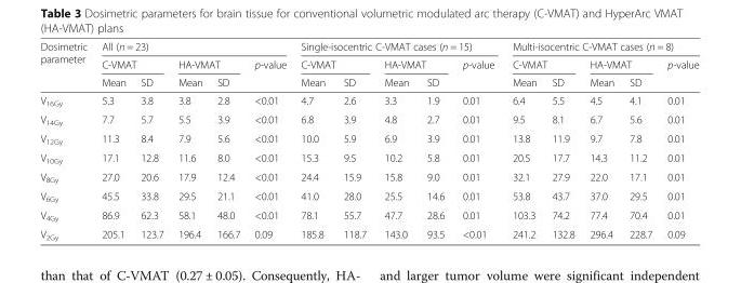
<table><thead><tr><td rowspan="3">Dosimetric parameter</td><td colspan="5">All (n = 23)</td><td colspan="5">Single-isocentric C-VMAT cases (n = 15)</td><td colspan="5">Multi-isocentric C-VMAT cases (n = 8)</td></tr><tr><td colspan="2">C-VMAT</td><td colspan="2">HA-VMAT</td><td rowspan="2">p-value</td><td colspan="2">C-VMAT</td><td colspan="2">HA-VMAT</td><td rowspan="2">p-value</td><td colspan="2">C-VMAT</td><td colspan="2">HA-VMAT</td><td rowspan="2">p-value</td></tr><tr><td>Mean</td><td>SD</td><td>Mean</td><td>SD</td><td>Mean</td><td>SD</td><td>Mean</td><td>SD</td><td>Mean</td><td>SD</td><td>Mean</td><td>SD</td></tr></thead><tbody><tr><td>V<sub>16Gy</sub></td><td>5.3</td><td>3.8</td><td>3.8</td><td>2.8</td><td>&lt;0.01</td><td>4.7</td><td>2.6</td><td>3.3</td><td>1.9</td><td>0.01</td><td>6.4</td><td>5.5</td><td>4.5</td><td>4.1</td><td>0.01</td></tr><tr><td>V<sub>14Gy</sub></td><td>7.7</td><td>5.7</td><td>5.5</td><td>3.9</td><td>&lt;0.01</td><td>6.8</td><td>3.9</td><td>4.8</td><td>2.7</td><td>0.01</td><td>9.5</td><td>8.1</td><td>6.7</td><td>5.6</td><td>0.01</td></tr><tr><td>V<sub>12Gy</sub></td><td>11.3</td><td>8.4</td><td>7.9</td><td>5.6</td><td>&lt;0.01</td><td>10.0</td><td>5.9</td><td>6.9</td><td>3.9</td><td>0.01</td><td>13.8</td><td>11.9</td><td>9.7</td><td>7.8</td><td>0.01</td></tr><tr><td>V<sub>10Gy</sub></td><td>17.1</td><td>12.8</td><td>11.6</td><td>8.0</td><td>&lt;0.01</td><td>15.3</td><td>9.5</td><td>10.2</td><td>5.8</td><td>0.01</td><td>20.5</td><td>17.7</td><td>14.3</td><td>11.2</td><td>0.01</td></tr><tr><td>V<sub>8Gy</sub></td><td>27.0</td><td>20.6</td><td>17.9</td><td>12.4</td><td>&lt;0.01</td><td>24.4</td><td>15.9</td><td>15.8</td><td>9.0</td><td>0.01</td><td>32.1</td><td>27.9</td><td>22.0</td><td>17.1</td><td>0.01</td></tr><tr><td>V<sub>6Gy</sub></td><td>45.5</td><td>33.8</td><td>29.5</td><td>21.1</td><td>&lt;0.01</td><td>41.0</td><td>28.0</td><td>25.5</td><td>14.6</td><td>0.01</td><td>53.8</td><td>43.7</td><td>37.0</td><td>29.5</td><td>0.01</td></tr><tr><td>V<sub>4Gy</sub></td><td>86.9</td><td>62.3</td><td>58.1</td><td>48.0</td><td>&lt;0.01</td><td>78.1</td><td>55.7</td><td>47.7</td><td>28.6</td><td>0.01</td><td>103.3</td><td>74.2</td><td>77.4</td><td>70.4</td><td>0.01</td></tr><tr><td>V<sub>2Gy</sub></td><td>205.1</td><td>123.7</td><td>196.4</td><td>166.7</td><td>0.09</td><td>185.8</td><td>118.7</td><td>143.0</td><td>93.5</td><td>&lt;0.01</td><td>241.2</td><td>132.8</td><td>296.4</td><td>228.7</td><td>0.09</td></tr></tbody></table>